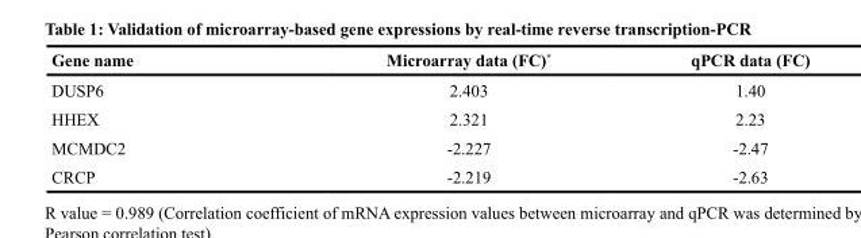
<table><thead><tr><td>Gene name</td><td>Microarray data (FC)*</td><td>qPCR data (FC)</td></tr></thead><tbody><tr><td>DUSP6</td><td>2.403</td><td>1.40</td></tr><tr><td>HHEX</td><td>2.321</td><td>2.23</td></tr><tr><td>MCMDC2</td><td>-2.227</td><td>-2.47</td></tr><tr><td>CRCP</td><td>-2.219</td><td>-2.63</td></tr></tbody></table>